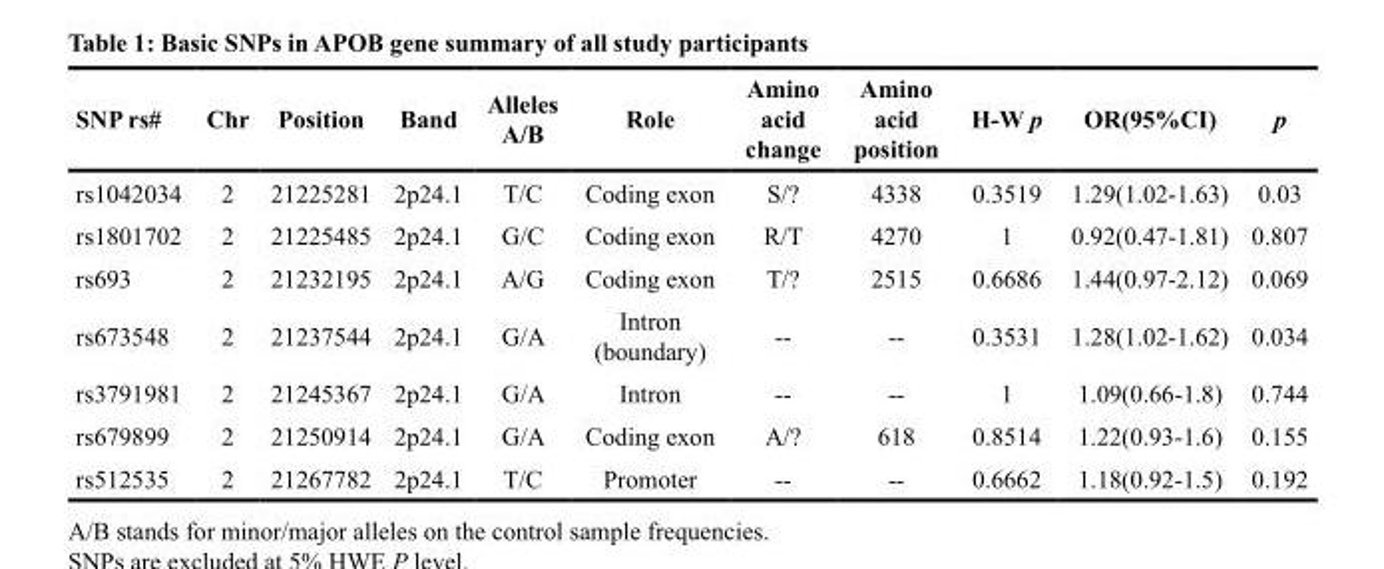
<table><thead><tr><td>SNP rs#</td><td>Chr</td><td>Position</td><td>Band</td><td>Alleles A/B</td><td>Role</td><td>Amino acid change</td><td>Amino acid position</td><td>H-W p</td><td>OR(95%CI)</td><td>p</td></tr></thead><tbody><tr><td>rs1042034</td><td>2</td><td>21225281</td><td>2p24.1</td><td>T/C</td><td>Coding exon</td><td>S/?</td><td>4338</td><td>0.3519</td><td>1.29(1.02-1.63)</td><td>0.03</td></tr><tr><td>rs1801702</td><td>2</td><td>21225485</td><td>2p24.1</td><td>G/C</td><td>Coding exon</td><td>R/T</td><td>4270</td><td>1</td><td>0.92(0.47-1.81)</td><td>0.807</td></tr><tr><td>rs693</td><td>2</td><td>21232195</td><td>2p24.1</td><td>A/G</td><td>Coding exon</td><td>T/?</td><td>2515</td><td>0.6686</td><td>1.44(0.97-2.12)</td><td>0.069</td></tr><tr><td>rs673548</td><td>2</td><td>21237544</td><td>2p24.1</td><td>G/A</td><td>Intron (boundary)</td><td>--</td><td>--</td><td>0.3531</td><td>1.28(1.02-1.62)</td><td>0.034</td></tr><tr><td>rs3791981</td><td>2</td><td>21245367</td><td>2p24.1</td><td>G/A</td><td>Intron</td><td>--</td><td>--</td><td>1</td><td>1.09(0.66-1.8)</td><td>0.744</td></tr><tr><td>rs679899</td><td>2</td><td>21250914</td><td>2p24.1</td><td>G/A</td><td>Coding exon</td><td>A/?</td><td>618</td><td>0.8514</td><td>1.22(0.93-1.6)</td><td>0.155</td></tr><tr><td>rs512535</td><td>2</td><td>21267782</td><td>2p24.1</td><td>T/C</td><td>Promoter</td><td>--</td><td>--</td><td>0.6662</td><td>1.18(0.92-1.5)</td><td>0.192</td></tr></tbody></table>